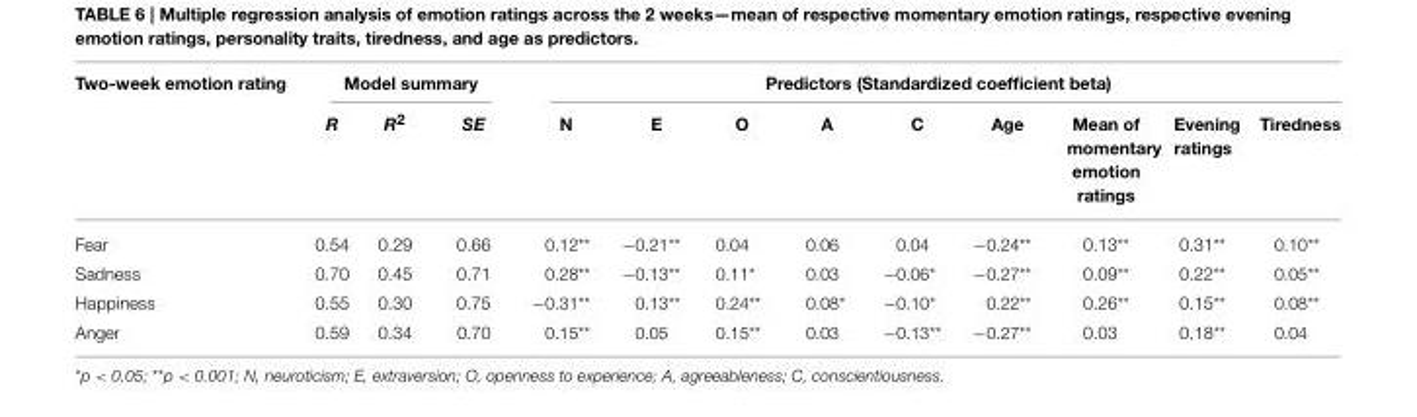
<table><thead><tr><td rowspan="2">Two-week emotion rating</td><td colspan="3">Model summary</td><td colspan="9">Predictors (Standardized coefficient beta)</td></tr><tr><td>R</td><td>R<sup>2</sup></td><td>SE</td><td>N</td><td>E</td><td>O</td><td>A</td><td>C</td><td>Age</td><td>Mean of momentary emotion ratings</td><td>Evening ratings</td><td>Tiredness</td></tr></thead><tbody><tr><td>Fear</td><td>0.54</td><td>0.29</td><td>0.66</td><td>0.12**</td><td>−0.21**</td><td>0.04</td><td>0.06</td><td>0.04</td><td>−0.24**</td><td>0.13**</td><td>0.31**</td><td>0.10**</td></tr><tr><td>Sadness</td><td>0.70</td><td>0.45</td><td>0.71</td><td>0.28**</td><td>−0.13**</td><td>0.11*</td><td>0.03</td><td>−0.06*</td><td>−0.27**</td><td>0.09**</td><td>0.22**</td><td>0.05**</td></tr><tr><td>Happiness</td><td>0.55</td><td>0.30</td><td>0.75</td><td>−0.31**</td><td>0.13**</td><td>0.24**</td><td>0.08*</td><td>−0.10*</td><td>0.22**</td><td>0.26**</td><td>0.15**</td><td>0.08**</td></tr><tr><td>Anger</td><td>0.59</td><td>0.34</td><td>0.70</td><td>0.15**</td><td>0.05</td><td>0.15**</td><td>0.03</td><td>−0.13**</td><td>−0.27**</td><td>0.03</td><td>0.18**</td><td>0.04</td></tr></tbody></table>